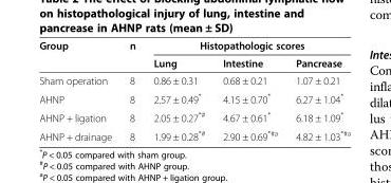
<table><thead><tr><td rowspan="2">Group</td><td rowspan="2">n</td><td colspan="3">Histopathologic scores</td></tr><tr><td>Lung</td><td>Intestine</td><td>Pancrease</td></tr></thead><tbody><tr><td>Sham operation</td><td>8</td><td>0.86 ± 0.31</td><td>0.68 ± 0.21</td><td>1.07 ± 0.21</td></tr><tr><td>AHNP</td><td>8</td><td>2.57 ± 0.49*</td><td>4.15 ± 0.70*</td><td>6.27 ± 1.04*</td></tr><tr><td>AHNP + ligation</td><td>8</td><td>2.05 ± 0.27<sup>*#</sup></td><td>4.67 ± 0.61*</td><td>6.18 ± 1.09*</td></tr><tr><td>AHNP + drainage</td><td>8</td><td>1.99 ± 0.28<sup>*#</sup></td><td>2.90 ± 0.69<sup>*#a</sup></td><td>4.82 ± 1.03<sup>*#a</sup></td></tr></tbody></table>